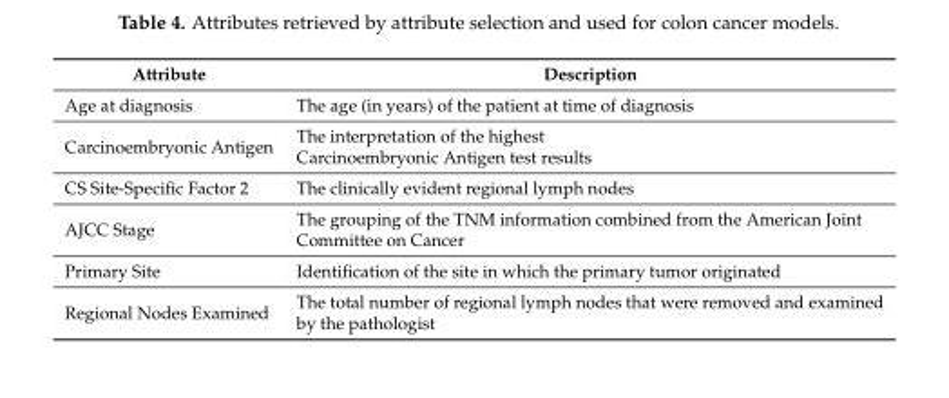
<table><thead><tr><td>Attribute</td><td>Description</td></tr></thead><tbody><tr><td>Age at diagnosis</td><td>The age (in years) of the patient at time of diagnosis</td></tr><tr><td>Carcinoembryonic Antigen</td><td>The interpretation of the highest Carcinoembryonic Antigen test results</td></tr><tr><td>CS Site-Specific Factor 2</td><td>The clinically evident regional lymph nodes</td></tr><tr><td>AJCC Stage</td><td>The grouping of the TNM information combined from the American Joint Committee on Cancer</td></tr><tr><td>Primary Site</td><td>Identification of the site in which the primary tumor originated</td></tr><tr><td>Regional Nodes Examined</td><td>The total number of regional lymph nodes that were removed and examined by the pathologist</td></tr></tbody></table>